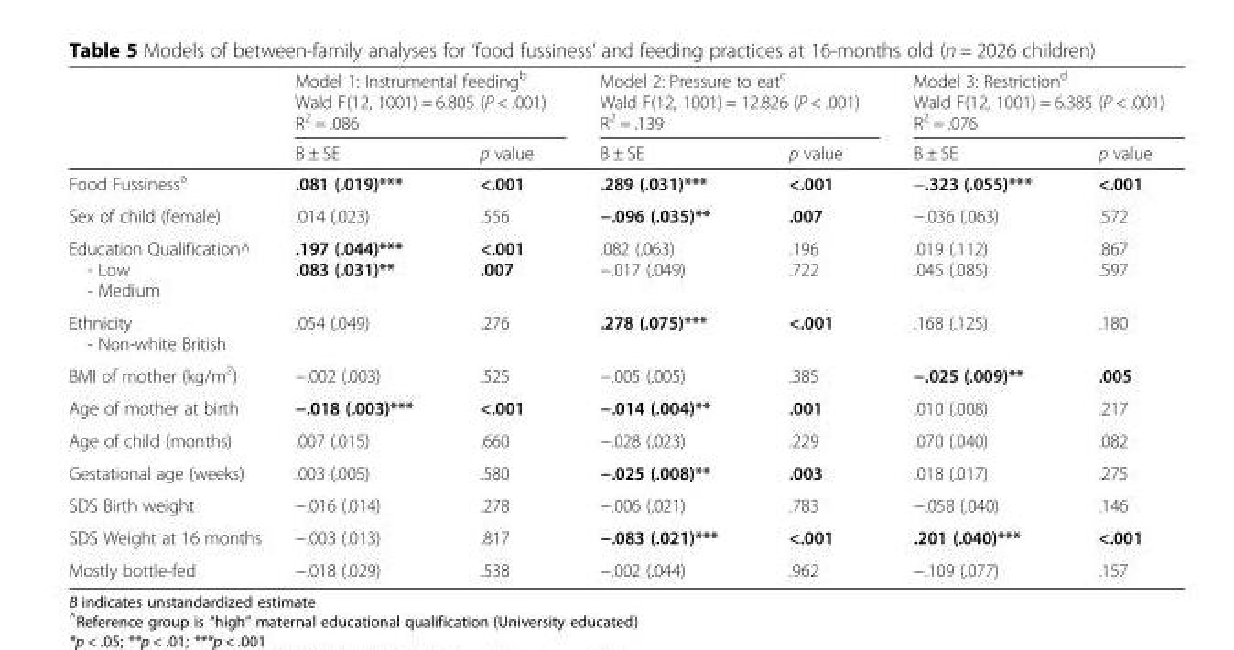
<table><thead><tr><td rowspan="2"></td><td colspan="2">Model 1: Instrumental feeding<sup>b</sup> Wald F(12, 1001) = 6.805 (P &lt; .001) R<sup>2</sup> = .086</td><td colspan="2">Model 2: Pressure to eat<sup>c</sup> Wald F(12, 1001) = 12.826 (P &lt; .001) R<sup>2</sup> = .139</td><td colspan="2">Model 3: Restriction<sup>d</sup> Wald F(12, 1001) = 6.385 (P &lt; .001) R<sup>2</sup> = .076</td></tr><tr><td>B ± SE</td><td>p value</td><td>B ± SE</td><td>p value</td><td>B ± SE</td><td>p value</td></tr></thead><tbody><tr><td>Food Fussiness<sup>a</sup></td><td>.081 (.019)***</td><td>&lt;.001</td><td>.289 (.031)***</td><td>&lt;.001</td><td>−.323 (.055)***</td><td>&lt;.001</td></tr><tr><td>Sex of child (female)</td><td>.014 (.023)</td><td>.556</td><td>−.096 (.035)**</td><td>.007</td><td>−.036 (.063)</td><td>.572</td></tr><tr><td>Education Qualification^ - Low - Medium</td><td>.197 (.044)*** .083 (.031)**</td><td>&lt;.001 .007</td><td>.082 (.063) −.017 (.049)</td><td>.196 .722</td><td>.019 (.112) .045 (.085)</td><td>.867 .597</td></tr><tr><td>Ethnicity - Non-white British</td><td>.054 (.049)</td><td>.276</td><td>.278 (.075)***</td><td>&lt;.001</td><td>.168 (.125)</td><td>.180</td></tr><tr><td>BMI of mother (kg/m<sup>2</sup>)</td><td>−.002 (.003)</td><td>.525</td><td>−.005 (.005)</td><td>.385</td><td>−.025 (.009)**</td><td>.005</td></tr><tr><td>Age of mother at birth</td><td>−.018 (.003)***</td><td>&lt;.001</td><td>−.014 (.004)**</td><td>.001</td><td>.010 (.008)</td><td>.217</td></tr><tr><td>Age of child (months)</td><td>.007 (.015)</td><td>.660</td><td>−.028 (.023)</td><td>.229</td><td>.070 (.040)</td><td>.082</td></tr><tr><td>Gestational age (weeks)</td><td>.003 (.005)</td><td>.580</td><td>−.025 (.008)**</td><td>.003</td><td>.018 (.017)</td><td>.275</td></tr><tr><td>SDS Birth weight</td><td>−.016 (.014)</td><td>.278</td><td>−.006 (.021)</td><td>.783</td><td>−.058 (.040)</td><td>.146</td></tr><tr><td>SDS Weight at 16 months</td><td>−.003 (.013)</td><td>.817</td><td>−.083 (.021)***</td><td>&lt;.001</td><td>.201 (.040)***</td><td>&lt;.001</td></tr><tr><td>Mostly bottle-fed</td><td>−.018 (.029)</td><td>.538</td><td>−.002 (.044)</td><td>.962</td><td>−.109 (.077)</td><td>.157</td></tr></tbody></table>